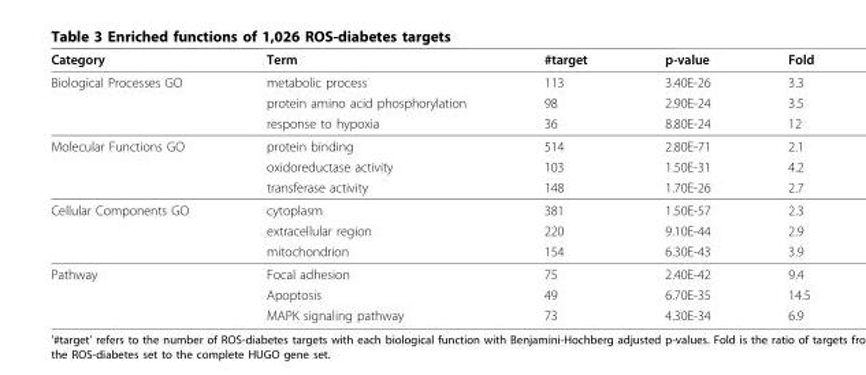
<table><thead><tr><td>Category</td><td>Term</td><td>#target</td><td>p-value</td><td>Fold</td></tr></thead><tbody><tr><td rowspan="3">Biological Processes GO</td><td>metabolic process</td><td>113</td><td>3.40E-26</td><td>3.3</td></tr><tr><td>protein amino acid phosphorylation</td><td>98</td><td>2.90E-24</td><td>3.5</td></tr><tr><td>response to hypoxia</td><td>36</td><td>8.80E-24</td><td>12</td></tr><tr><td rowspan="3">Molecular Functions GO</td><td>protein binding</td><td>514</td><td>2.80E-71</td><td>2.1</td></tr><tr><td>oxidoreductase activity</td><td>103</td><td>1.50E-31</td><td>4.2</td></tr><tr><td>transferase activity</td><td>148</td><td>1.70E-26</td><td>2.7</td></tr><tr><td rowspan="3">Cellular Components GO</td><td>cytoplasm</td><td>381</td><td>1.50E-57</td><td>2.3</td></tr><tr><td>extracellular region</td><td>220</td><td>9.10E-44</td><td>2.9</td></tr><tr><td>mitochondrion</td><td>154</td><td>6.30E-43</td><td>3.9</td></tr><tr><td rowspan="3">Pathway</td><td>Focal adhesion</td><td>75</td><td>2.40E-42</td><td>9.4</td></tr><tr><td>Apoptosis</td><td>49</td><td>6.70E-35</td><td>14.5</td></tr><tr><td>MAPK signaling pathway</td><td>73</td><td>4.30E-34</td><td>6.9</td></tr></tbody></table>